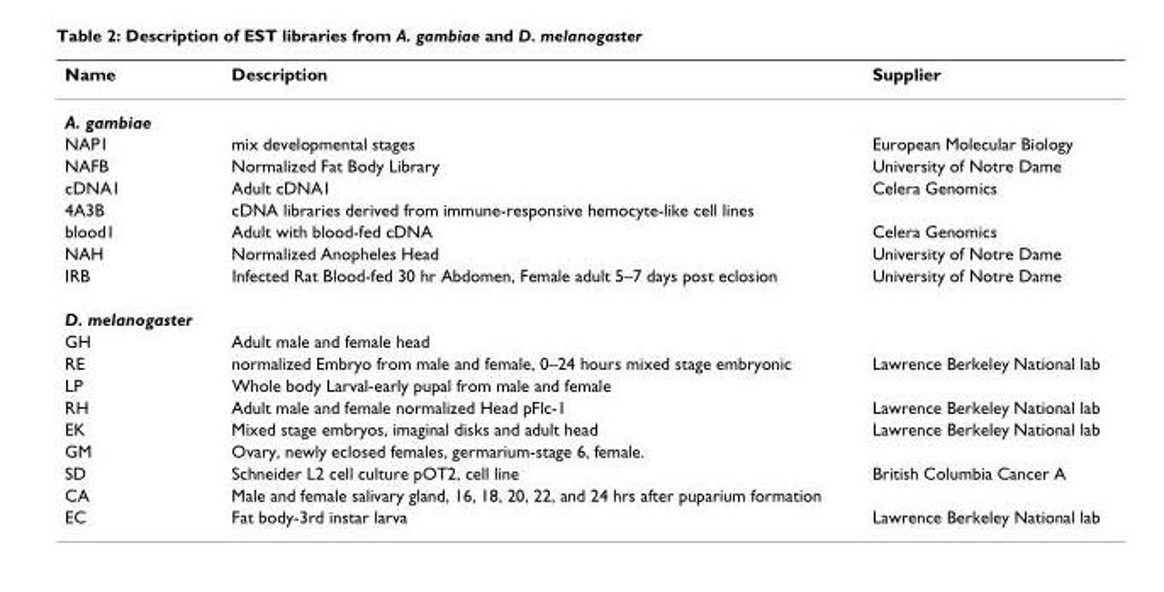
<table><thead><tr><td>Name</td><td>Description</td><td>Supplier</td></tr></thead><tbody><tr><td colspan="3">A. gambiae</td></tr><tr><td>NAP1</td><td>mix developmental stages</td><td>European Molecular Biology</td></tr><tr><td>NAFB</td><td>Normalized Fat Body Library</td><td>University of Notre Dame</td></tr><tr><td>cDNA1</td><td>Adult cDNA1</td><td>Celera Genomics</td></tr><tr><td>4A3B</td><td>cDNA libraries derived from immune-responsive hemocyte-like cell lines</td><td></td></tr><tr><td>blood1</td><td>Adult with blood-fed cDNA</td><td>Celera Genomics</td></tr><tr><td>NAH</td><td>Normalized Anopheles Head</td><td>University of Notre Dame</td></tr><tr><td>IRB</td><td>Infected Rat Blood-fed 30 hr Abdomen, Female adult 5–7 days post eclosion</td><td>University of Notre Dame</td></tr><tr><td colspan="3">D. melanogaster</td></tr><tr><td>GH</td><td>Adult male and female head</td><td></td></tr><tr><td>RE</td><td>normalized Embryo from male and female, 0–24 hours mixed stage embryonic</td><td>Lawrence Berkeley National lab</td></tr><tr><td>LP</td><td>Whole body Larval-early pupal from male and female</td><td></td></tr><tr><td>RH</td><td>Adult male and female normalized Head pFlc-1</td><td>Lawrence Berkeley National lab</td></tr><tr><td>EK</td><td>Mixed stage embryos, imaginal disks and adult head</td><td>Lawrence Berkeley National lab</td></tr><tr><td>GM</td><td>Ovary, newly eclosed females, germarium-stage 6, female.</td><td></td></tr><tr><td>SD</td><td>Schneider L2 cell culture pOT2, cell line</td><td>British Columbia Cancer A</td></tr><tr><td>CA</td><td>Male and female salivary gland, 16, 18, 20, 22, and 24 hrs after puparium formation</td><td></td></tr><tr><td>EC</td><td>Fat body-3rd instar larva</td><td>Lawrence Berkeley National lab</td></tr></tbody></table>